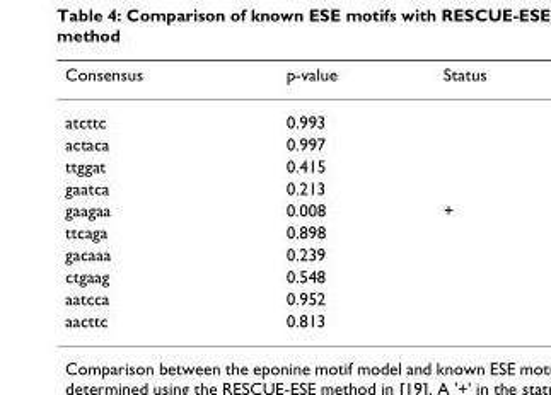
<table><thead><tr><td>Consensus</td><td>p-value</td><td>Status</td></tr></thead><tbody><tr><td>atcttc</td><td>0.993</td><td></td></tr><tr><td>actaca</td><td>0.997</td><td></td></tr><tr><td>ttggat</td><td>0.415</td><td></td></tr><tr><td>gaatca</td><td>0.213</td><td></td></tr><tr><td>gaagaa</td><td>0.008</td><td>+</td></tr><tr><td>ttcaga</td><td>0.898</td><td></td></tr><tr><td>gacaaa</td><td>0.239</td><td></td></tr><tr><td>ctgaag</td><td>0.548</td><td></td></tr><tr><td>aatcca</td><td>0.952</td><td></td></tr><tr><td>aacttc</td><td>0.813</td><td></td></tr></tbody></table>